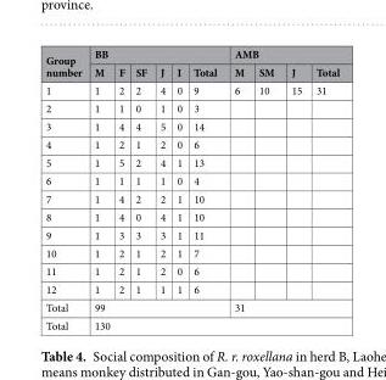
<table><thead><tr><td rowspan="2">Group number</td><td colspan="6">BB</td><td colspan="4">AMB</td></tr><tr><td>M</td><td>F</td><td>SF</td><td>J</td><td>I</td><td>Total</td><td>M</td><td>SM</td><td>J</td><td>Total</td></tr></thead><tbody><tr><td>1</td><td>1</td><td>2</td><td>2</td><td>4</td><td>0</td><td>9</td><td>6</td><td>10</td><td>15</td><td>31</td></tr><tr><td>2</td><td>1</td><td>1</td><td>0</td><td>1</td><td>0</td><td>3</td><td></td><td></td><td></td><td></td></tr><tr><td>3</td><td>1</td><td>4</td><td>4</td><td>5</td><td>0</td><td>14</td><td></td><td></td><td></td><td></td></tr><tr><td>4</td><td>1</td><td>2</td><td>1</td><td>2</td><td>0</td><td>6</td><td></td><td></td><td></td><td></td></tr><tr><td>5</td><td>1</td><td>5</td><td>2</td><td>4</td><td>1</td><td>13</td><td></td><td></td><td></td><td></td></tr><tr><td>6</td><td>1</td><td>1</td><td>1</td><td>1</td><td>0</td><td>4</td><td></td><td></td><td></td><td></td></tr><tr><td>7</td><td>1</td><td>4</td><td>2</td><td>2</td><td>1</td><td>10</td><td></td><td></td><td></td><td></td></tr><tr><td>8</td><td>1</td><td>4</td><td>0</td><td>4</td><td>1</td><td>10</td><td></td><td></td><td></td><td></td></tr><tr><td>9</td><td>1</td><td>3</td><td>3</td><td>3</td><td>1</td><td>11</td><td></td><td></td><td></td><td></td></tr><tr><td>10</td><td>1</td><td>2</td><td>1</td><td>2</td><td>1</td><td>7</td><td></td><td></td><td></td><td></td></tr><tr><td>11</td><td>1</td><td>2</td><td>1</td><td>2</td><td>0</td><td>6</td><td></td><td></td><td></td><td></td></tr><tr><td>12</td><td>1</td><td>2</td><td>1</td><td>1</td><td>1</td><td>6</td><td></td><td></td><td></td><td></td></tr><tr><td>Total</td><td colspan="6">99</td><td colspan="4">31</td></tr><tr><td>Total</td><td colspan="10">130</td></tr></tbody></table>